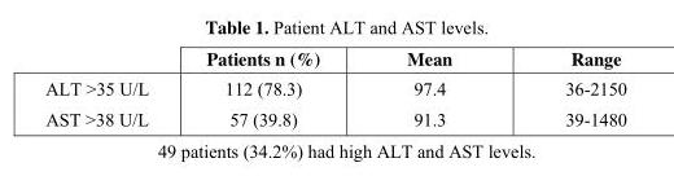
<table><thead><tr><td></td><td>Patients n (%)</td><td>Mean</td><td>Range</td></tr></thead><tbody><tr><td>ALT &gt;35 U/L</td><td>112 (78.3)</td><td>97.4</td><td>36-2150</td></tr><tr><td>AST &gt;38 U/L</td><td>57 (39.8)</td><td>91.3</td><td>39-1480</td></tr></tbody></table>